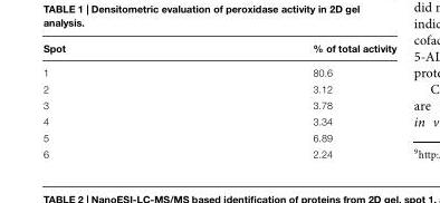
<table><thead><tr><td>Spot</td><td>% of total activity</td></tr></thead><tbody><tr><td>1</td><td>80.6</td></tr><tr><td>2</td><td>3.12</td></tr><tr><td>3</td><td>3.78</td></tr><tr><td>4</td><td>3.34</td></tr><tr><td>5</td><td>6.89</td></tr><tr><td>6</td><td>2.24</td></tr></tbody></table>